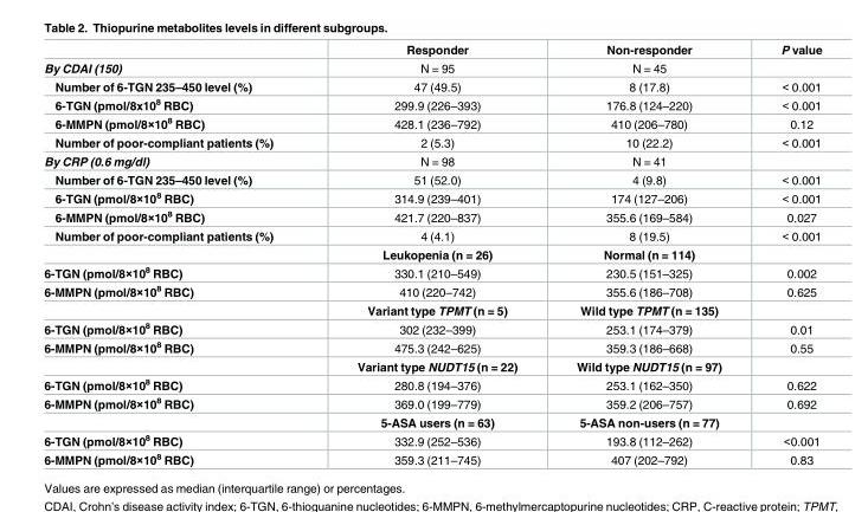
<table><thead><tr><td></td><td>Responder</td><td>Non-responder</td><td>P value</td></tr></thead><tbody><tr><td>By CDAI (150)</td><td>N = 95</td><td>N = 45</td><td></td></tr><tr><td>Number of 6-TGN 235–450 level (%)</td><td>47 (49.5)</td><td>8 (17.8)</td><td>&lt; 0.001</td></tr><tr><td>6-TGN (pmol/8x10<sup>8</sup> RBC)</td><td>299.9 (226–393)</td><td>176.8 (124–220)</td><td>&lt; 0.001</td></tr><tr><td>6-MMPN (pmol/8×10<sup>8</sup> RBC)</td><td>428.1 (236–792)</td><td>410 (206–780)</td><td>0.12</td></tr><tr><td>Number of poor-compliant patients (%)</td><td>2 (5.3)</td><td>10 (22.2)</td><td>&lt; 0.001</td></tr><tr><td>By CRP (0.6 mg/dl)</td><td>N = 98</td><td>N = 41</td><td></td></tr><tr><td>Number of 6-TGN 235–450 level (%)</td><td>51 (52.0)</td><td>4 (9.8)</td><td>&lt; 0.001</td></tr><tr><td>6-TGN (pmol/8×10<sup>8</sup> RBC)</td><td>314.9 (239–401)</td><td>174 (127–206)</td><td>&lt; 0.001</td></tr><tr><td>6-MMPN (pmol/8×10<sup>8</sup> RBC)</td><td>421.7 (220–837)</td><td>355.6 (169–584)</td><td>0.027</td></tr><tr><td rowspan="2">Number of poor-compliant patients (%)</td><td>4 (4.1)</td><td>8 (19.5)</td><td>&lt; 0.001</td></tr><tr><td>Leukopenia (n = 26)</td><td>Normal (n = 114)</td><td></td></tr><tr><td>6-TGN (pmol/8×10<sup>8</sup> RBC)</td><td>330.1 (210–549)</td><td>230.5 (151–325)</td><td>0.002</td></tr><tr><td rowspan="2">6-MMPN (pmol/8×10<sup>8</sup> RBC)</td><td>410 (220–742)</td><td>355.6 (186–708)</td><td>0.625</td></tr><tr><td>Variant type TPMT (n = 5)</td><td>Wild type TPMT (n = 135)</td><td></td></tr><tr><td>6-TGN (pmol/8×10<sup>8</sup> RBC)</td><td>302 (232–399)</td><td>253.1 (174–379)</td><td>0.01</td></tr><tr><td rowspan="2">6-MMPN (pmol/8×10<sup>8</sup> RBC)</td><td>475.3 (242–625)</td><td>359.3 (186–668)</td><td>0.55</td></tr><tr><td>Variant type NUDT15 (n = 22)</td><td>Wild type NUDT15 (n = 97)</td><td></td></tr><tr><td>6-TGN (pmol/8×10<sup>8</sup> RBC)</td><td>280.8 (194–376)</td><td>253.1 (162–350)</td><td>0.622</td></tr><tr><td rowspan="2">6-MMPN (pmol/8×10<sup>8</sup> RBC)</td><td>369.0 (199–779)</td><td>359.2 (206–757)</td><td>0.692</td></tr><tr><td>5-ASA users (n = 63)</td><td>5-ASA non-users (n = 77)</td><td></td></tr><tr><td>6-TGN (pmol/8×10<sup>8</sup> RBC)</td><td>332.9 (252–536)</td><td>193.8 (112–262)</td><td>&lt;0.001</td></tr><tr><td>6-MMPN (pmol/8×10<sup>8</sup> RBC)</td><td>359.3 (211–745)</td><td>407 (202–792)</td><td>0.83</td></tr></tbody></table>